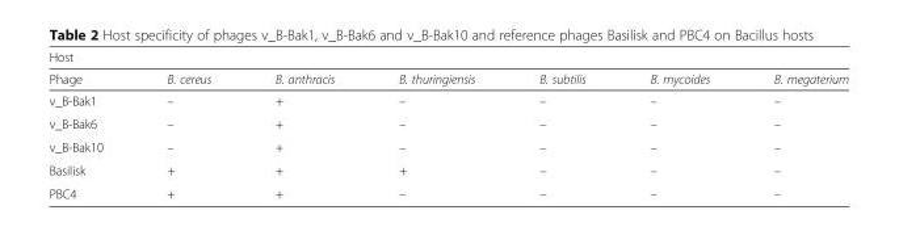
<table><thead><tr><td colspan="7">Host</td></tr><tr><td>Phage</td><td>B. cereus</td><td>B. anthracis</td><td>B. thuringiensis</td><td>B. subtilis</td><td>B. mycoides</td><td>B. megaterium</td></tr></thead><tbody><tr><td>v_B-Bak1</td><td>–</td><td>+</td><td>–</td><td>–</td><td>–</td><td>–</td></tr><tr><td>v_B-Bak6</td><td>–</td><td>+</td><td>–</td><td>–</td><td>–</td><td>–</td></tr><tr><td>v_B-Bak10</td><td>–</td><td>+</td><td>–</td><td>–</td><td>–</td><td>–</td></tr><tr><td>Basilisk</td><td>+</td><td>+</td><td>+</td><td>–</td><td>–</td><td>–</td></tr><tr><td>PBC4</td><td>+</td><td>+</td><td>–</td><td>–</td><td>–</td><td>–</td></tr></tbody></table>